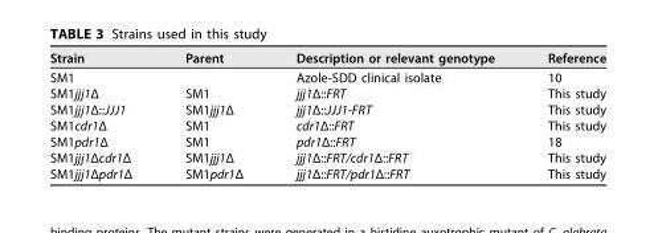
<table><thead><tr><td>Strain</td><td>Parent</td><td>Description or relevant genotype</td><td>Reference</td></tr></thead><tbody><tr><td>SM1</td><td></td><td>Azole-SDD clinical isolate</td><td>10</td></tr><tr><td>SM1jjj1Δ</td><td>SM1</td><td>jjj1Δ::FRT</td><td>This study</td></tr><tr><td>SM1jjj1Δ::JJJ1</td><td>SM1jjj1Δ</td><td>jjj1Δ::JJJ1-FRT</td><td>This study</td></tr><tr><td>SM1cdr1Δ</td><td>SM1</td><td>cdr1Δ::FRT</td><td>This study</td></tr><tr><td>SM1pdr1Δ</td><td>SM1</td><td>pdr1Δ::FRT</td><td>18</td></tr><tr><td>SM1jjj1Δcdr1Δ</td><td>SM1jjj1Δ</td><td>jjj1Δ::FRT/cdr1Δ::FRT</td><td>This study</td></tr><tr><td>SM1jjj1Δpdr1Δ</td><td>SM1pdr1Δ</td><td>jjj1Δ::FRT/pdr1Δ::FRT</td><td>This study</td></tr></tbody></table>